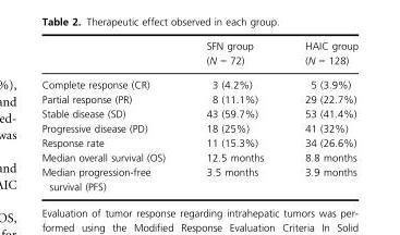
<table><thead><tr><td></td><td>SFN group (N = 72)</td><td>HAIC group (N = 128)</td></tr></thead><tbody><tr><td>Complete response (CR)</td><td>3 (4.2%)</td><td>5 (3.9%)</td></tr><tr><td>Partial response (PR)</td><td>8 (11.1%)</td><td>29 (22.7%)</td></tr><tr><td>Stable disease (SD)</td><td>43 (59.7%)</td><td>53 (41.4%)</td></tr><tr><td>Progressive disease (PD)</td><td>18 (25%)</td><td>41 (32%)</td></tr><tr><td>Response rate</td><td>11 (15.3%)</td><td>34 (26.6%)</td></tr><tr><td>Median overall survival (OS)</td><td>12.5 months</td><td>8.8 months</td></tr><tr><td>Median progression-free survival (PFS)</td><td>3.5 months</td><td>3.9 months</td></tr></tbody></table>